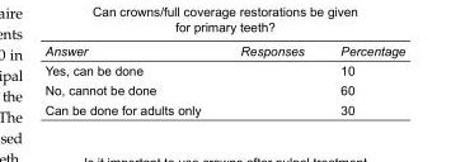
<table><tbody><tr><td>Answer</td><td>Responses</td><td>Percentage</td></tr><tr><td>Yes, can be done</td><td></td><td>10</td></tr><tr><td>No, cannot be done</td><td></td><td>60</td></tr><tr><td>Can be done for adults only</td><td></td><td>30</td></tr></tbody></table>